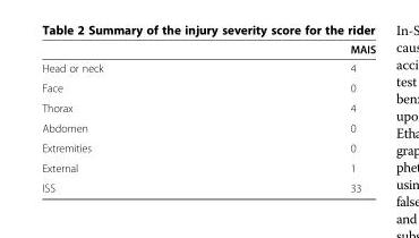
<table><thead><tr><td></td><td>MAIS</td></tr></thead><tbody><tr><td>Head or neck</td><td>4</td></tr><tr><td>Face</td><td>0</td></tr><tr><td>Thorax</td><td>4</td></tr><tr><td>Abdomen</td><td>0</td></tr><tr><td>Extremities</td><td>0</td></tr><tr><td>External</td><td>1</td></tr><tr><td>ISS</td><td>33</td></tr></tbody></table>